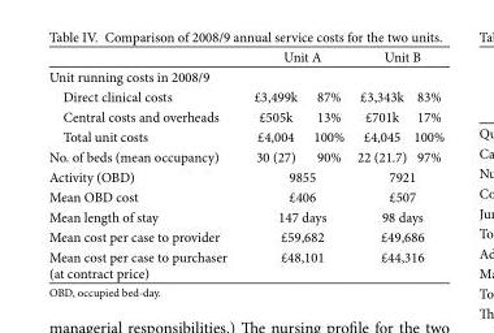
<table><thead><tr><td rowspan="2">Unit running costs in 2008/9</td><td colspan="2">Unit A</td><td colspan="2">Unit B</td></tr><tr><td></td><td></td><td></td><td></td></tr></thead><tbody><tr><td>Direct clinical costs</td><td>£3,499k</td><td>87%</td><td>£3,343k</td><td>83%</td></tr><tr><td>Central costs and overheads</td><td>£505k</td><td>13%</td><td>£701k</td><td>17%</td></tr><tr><td>Total unit costs</td><td>£4,004</td><td>100%</td><td>£4,045</td><td>100%</td></tr><tr><td>No. of beds (mean occupancy)</td><td>30 (27)</td><td>90%</td><td>22 (21.7)</td><td>97%</td></tr><tr><td>Activity (OBD)</td><td colspan="2">9855</td><td colspan="2">7921</td></tr><tr><td>Mean OBD cost</td><td colspan="2">£406</td><td colspan="2">£507</td></tr><tr><td>Mean length of stay</td><td colspan="2">147 days</td><td colspan="2">98 days</td></tr><tr><td>Mean cost per case to provider</td><td colspan="2">£59,682</td><td colspan="2">£49,686</td></tr><tr><td>Mean cost per case to purchaser (at contract price)</td><td colspan="2">£48,101</td><td colspan="2">£44,316</td></tr></tbody></table>